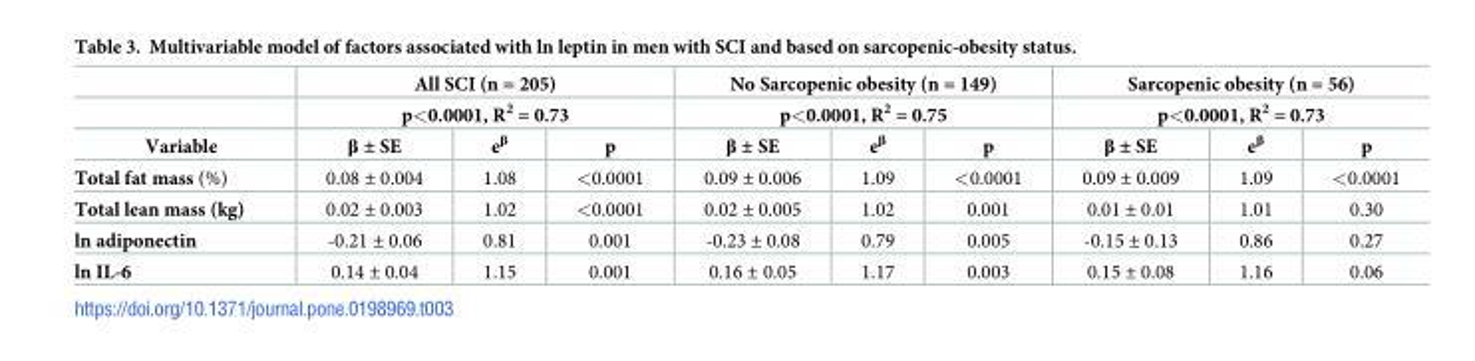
<table><thead><tr><td rowspan="3">Variable</td><td rowspan="2" colspan="3">All SCI (n = 205) p&lt;0.0001, R<sup>2</sup> = 0.73</td><td rowspan="2" colspan="3">No Sarcopenic obesity (n = 149) p&lt;0.0001, R<sup>2</sup> = 0.75</td><td rowspan="2" colspan="3">Sarcopenic obesity (n = 56) p&lt;0.0001, R<sup>2</sup> = 0.73</td></tr><tr></tr><tr><td>β ± SE</td><td>e<sup>β</sup></td><td>p</td><td>β ± SE</td><td>e<sup>β</sup></td><td>p</td><td>β ± SE</td><td>e<sup>β</sup></td><td>p</td></tr></thead><tbody><tr><td>Total fat mass (%)</td><td>0.08 ± 0.004</td><td>1.08</td><td>&lt;0.0001</td><td>0.09 ± 0.006</td><td>1.09</td><td>&lt;0.0001</td><td>0.09 ± 0.009</td><td>1.09</td><td>&lt;0.0001</td></tr><tr><td>Total lean mass (kg)</td><td>0.02 ± 0.003</td><td>1.02</td><td>&lt;0.0001</td><td>0.02 ± 0.005</td><td>1.02</td><td>0.001</td><td>0.01 ± 0.01</td><td>1.01</td><td>0.30</td></tr><tr><td>ln adiponectin</td><td>-0.21 ± 0.06</td><td>0.81</td><td>0.001</td><td>-0.23 ± 0.08</td><td>0.79</td><td>0.005</td><td>-0.15 ± 0.13</td><td>0.86</td><td>0.27</td></tr><tr><td>ln IL-6</td><td>0.14 ± 0.04</td><td>1.15</td><td>0.001</td><td>0.16 ± 0.05</td><td>1.17</td><td>0.003</td><td>0.15 ± 0.08</td><td>1.16</td><td>0.06</td></tr></tbody></table>